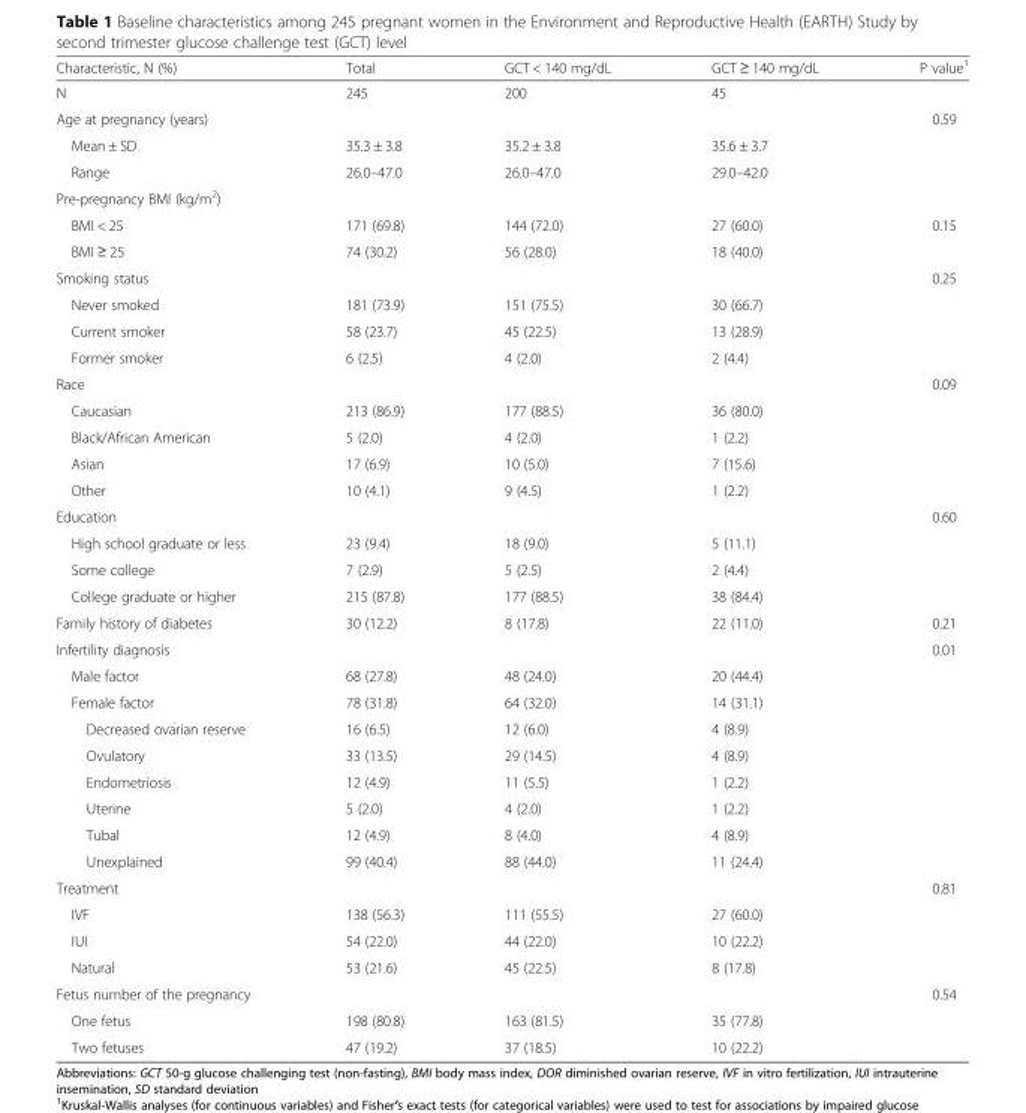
<table><thead><tr><td>Characteristic, N (%)</td><td>Total</td><td>GCT &lt; 140 mg/dL</td><td>GCT ≥ 140 mg/dL</td><td>P value<sup>1</sup></td></tr></thead><tbody><tr><td>N</td><td>245</td><td>200</td><td>45</td><td></td></tr><tr><td colspan="4">Age at pregnancy (years)</td><td>0.59</td></tr><tr><td>Mean ± SD</td><td>35.3 ± 3.8</td><td>35.2 ± 3.8</td><td>35.6 ± 3.7</td><td rowspan="2"></td></tr><tr><td>Range</td><td>26.0–47.0</td><td>26.0–47.0</td><td>29.0–42.0</td></tr><tr><td colspan="5">Pre-pregnancy BMI (kg/m<sup>2</sup>)</td></tr><tr><td>BMI &lt; 25</td><td>171 (69.8)</td><td>144 (72.0)</td><td>27 (60.0)</td><td>0.15</td></tr><tr><td>BMI ≥ 25</td><td>74 (30.2)</td><td>56 (28.0)</td><td>18 (40.0)</td><td></td></tr><tr><td colspan="4">Smoking status</td><td>0.25</td></tr><tr><td>Never smoked</td><td>181 (73.9)</td><td>151 (75.5)</td><td>30 (66.7)</td><td rowspan="3"></td></tr><tr><td>Current smoker</td><td>58 (23.7)</td><td>45 (22.5)</td><td>13 (28.9)</td></tr><tr><td>Former smoker</td><td>6 (2.5)</td><td>4 (2.0)</td><td>2 (4.4)</td></tr><tr><td colspan="4">Race</td><td>0.09</td></tr><tr><td>Caucasian</td><td>213 (86.9)</td><td>177 (88.5)</td><td>36 (80.0)</td><td rowspan="4"></td></tr><tr><td>Black/African American</td><td>5 (2.0)</td><td>4 (2.0)</td><td>1 (2.2)</td></tr><tr><td>Asian</td><td>17 (6.9)</td><td>10 (5.0)</td><td>7 (15.6)</td></tr><tr><td>Other</td><td>10 (4.1)</td><td>9 (4.5)</td><td>1 (2.2)</td></tr><tr><td colspan="4">Education</td><td>0.60</td></tr><tr><td>High school graduate or less</td><td>23 (9.4)</td><td>18 (9.0)</td><td>5 (11.1)</td><td rowspan="3"></td></tr><tr><td>Some college</td><td>7 (2.9)</td><td>5 (2.5)</td><td>2 (4.4)</td></tr><tr><td>College graduate or higher</td><td>215 (87.8)</td><td>177 (88.5)</td><td>38 (84.4)</td></tr><tr><td>Family history of diabetes</td><td>30 (12.2)</td><td>8 (17.8)</td><td>22 (11.0)</td><td>0.21</td></tr><tr><td colspan="4">Infertility diagnosis</td><td>0.01</td></tr><tr><td>Male factor</td><td>68 (27.8)</td><td>48 (24.0)</td><td>20 (44.4)</td><td rowspan="8"></td></tr><tr><td>Female factor</td><td>78 (31.8)</td><td>64 (32.0)</td><td>14 (31.1)</td></tr><tr><td>Decreased ovarian reserve</td><td>16 (6.5)</td><td>12 (6.0)</td><td>4 (8.9)</td></tr><tr><td>Ovulatory</td><td>33 (13.5)</td><td>29 (14.5)</td><td>4 (8.9)</td></tr><tr><td>Endometriosis</td><td>12 (4.9)</td><td>11 (5.5)</td><td>1 (2.2)</td></tr><tr><td>Uterine</td><td>5 (2.0)</td><td>4 (2.0)</td><td>1 (2.2)</td></tr><tr><td>Tubal</td><td>12 (4.9)</td><td>8 (4.0)</td><td>4 (8.9)</td></tr><tr><td>Unexplained</td><td>99 (40.4)</td><td>88 (44.0)</td><td>11 (24.4)</td></tr><tr><td colspan="4">Treatment</td><td>0.81</td></tr><tr><td>IVF</td><td>138 (56.3)</td><td>111 (55.5)</td><td>27 (60.0)</td><td rowspan="3"></td></tr><tr><td>IUI</td><td>54 (22.0)</td><td>44 (22.0)</td><td>10 (22.2)</td></tr><tr><td>Natural</td><td>53 (21.6)</td><td>45 (22.5)</td><td>8 (17.8)</td></tr><tr><td colspan="4">Fetus number of the pregnancy</td><td>0.54</td></tr><tr><td>One fetus</td><td>198 (80.8)</td><td>163 (81.5)</td><td>35 (77.8)</td><td rowspan="2"></td></tr><tr><td>Two fetuses</td><td>47 (19.2)</td><td>37 (18.5)</td><td>10 (22.2)</td></tr></tbody></table>